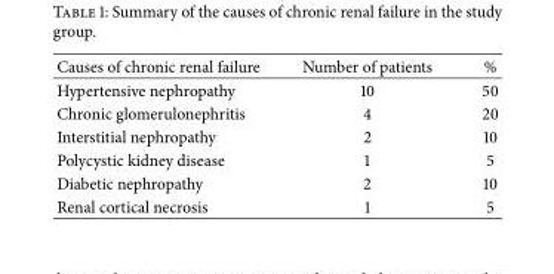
<table><thead><tr><td>Causes of chronic renal failure</td><td>Number of patients</td><td>%</td></tr></thead><tbody><tr><td>Hypertensive nephropathy</td><td>10</td><td>50</td></tr><tr><td>Chronic glomerulonephritis</td><td>4</td><td>20</td></tr><tr><td>Interstitial nephropathy</td><td>2</td><td>10</td></tr><tr><td>Polycystic kidney disease</td><td>1</td><td>5</td></tr><tr><td>Diabetic nephropathy</td><td>2</td><td>10</td></tr><tr><td>Renal cortical necrosis</td><td>1</td><td>5</td></tr></tbody></table>